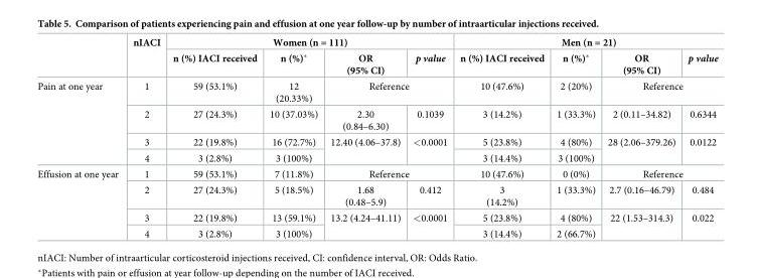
<table><thead><tr><td rowspan="2"></td><td rowspan="2">nIACI</td><td colspan="4">Women (n = 111)</td><td colspan="4">Men (n = 21)</td></tr><tr><td>n (%) IACI received</td><td>n (%)*</td><td>OR (95% CI)</td><td>p value</td><td>n (%) IACI received</td><td>n (%)*</td><td>OR (95% CI)</td><td>p value</td></tr></thead><tbody><tr><td rowspan="4">Pain at one year</td><td>1</td><td>59 (53.1%)</td><td>12 (20.33%)</td><td colspan="2">Reference</td><td>10 (47.6%)</td><td>2 (20%)</td><td colspan="2">Reference</td></tr><tr><td>2</td><td>27 (24.3%)</td><td>10 (37.03%)</td><td>2.30 (0.84–6.30)</td><td>0.1039</td><td>3 (14.2%)</td><td>1 (33.3%)</td><td>2 (0.11–34.82)</td><td>0.6344</td></tr><tr><td>3</td><td>22 (19.8%)</td><td>16 (72.7%)</td><td rowspan="2">12.40 (4.06–37.8)</td><td rowspan="2">&lt;0.0001</td><td>5 (23.8%)</td><td>4 (80%)</td><td rowspan="2">28 (2.06–379.26)</td><td rowspan="2">0.0122</td></tr><tr><td>4</td><td>3 (2.8%)</td><td>3 (100%)</td><td>3 (14.4%)</td><td>3 (100%)</td></tr><tr><td rowspan="4">Effusion at one year</td><td>1</td><td>59 (53.1%)</td><td>7 (11.8%)</td><td colspan="2">Reference</td><td>10 (47.6%)</td><td>0 (0%)</td><td colspan="2">Reference</td></tr><tr><td>2</td><td>27 (24.3%)</td><td>5 (18.5%)</td><td>1.68 (0.48–5.9)</td><td>0.412</td><td>3 (14.2%)</td><td>1 (33.3%)</td><td>2.7 (0.16–46.79)</td><td>0.484</td></tr><tr><td>3</td><td>22 (19.8%)</td><td>13 (59.1%)</td><td rowspan="2">13.2 (4.24–41.11)</td><td rowspan="2">&lt;0.0001</td><td>5 (23.8%)</td><td>4 (80%)</td><td rowspan="2">22 (1.53–314.3)</td><td rowspan="2">0.022</td></tr><tr><td>4</td><td>3 (2.8%)</td><td>3 (100%)</td><td>3 (14.4%)</td><td>2 (66.7%)</td></tr></tbody></table>